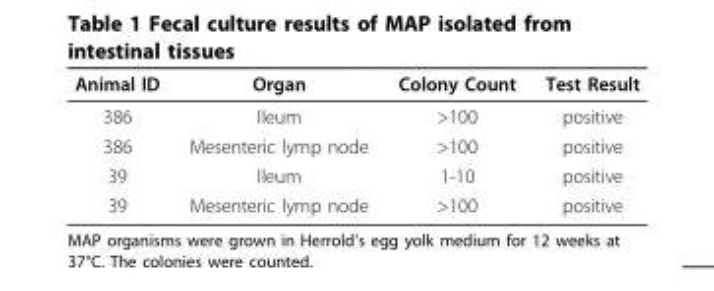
<table><thead><tr><td>Animal ID</td><td>Organ</td><td>Colony Count</td><td>Test Result</td></tr></thead><tbody><tr><td>386</td><td>Ileum</td><td>&gt;100</td><td>positive</td></tr><tr><td>386</td><td>Mesenteric lymp node</td><td>&gt;100</td><td>positive</td></tr><tr><td>39</td><td>Ileum</td><td>1-10</td><td>positive</td></tr><tr><td>39</td><td>Mesenteric lymp node</td><td>&gt;100</td><td>positive</td></tr></tbody></table>